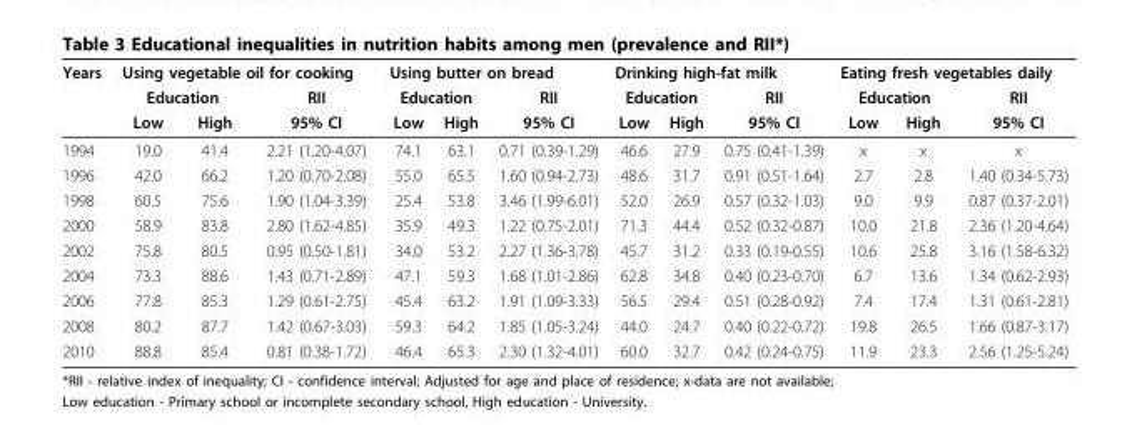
<table><thead><tr><td rowspan="3">Years</td><td colspan="3">Using vegetable oil for cooking</td><td colspan="3">Using butter on bread</td><td colspan="3">Drinking high-fat milk</td><td colspan="3">Eating fresh vegetables daily</td></tr><tr><td colspan="2">Education</td><td rowspan="2">RII 95% CI</td><td colspan="2">Education</td><td rowspan="2">RII 95% CI</td><td colspan="2">Education</td><td rowspan="2">RII 95% CI</td><td colspan="2">Education</td><td rowspan="2">RII 95% CI</td></tr><tr><td>Low</td><td>High</td><td>Low</td><td>High</td><td>Low</td><td>High</td><td>Low</td><td>High</td></tr></thead><tbody><tr><td>1994</td><td>19.0</td><td>41.4</td><td>2.21 (1.20-4.07)</td><td>74.1</td><td>63.1</td><td>0.71 (0.39-1.29)</td><td>46.6</td><td>27.9</td><td>0.75 (0.41-1.39)</td><td>x</td><td>x</td><td>x</td></tr><tr><td>1996</td><td>42.0</td><td>66.2</td><td>1.20 (0.70-2.08)</td><td>55.0</td><td>65.5</td><td>1.60 (0.94-2.73)</td><td>48.6</td><td>31.7</td><td>0.91 (0.51-1.64)</td><td>2.7</td><td>2.8</td><td>1.40 (0.34-5.73)</td></tr><tr><td>1998</td><td>60.5</td><td>75.6</td><td>1.90 (1.04-3.39)</td><td>25.4</td><td>53.8</td><td>3.46 (1.99-6.01)</td><td>52.0</td><td>26.9</td><td>0.57 (0.32-1.03)</td><td>9.0</td><td>9.9</td><td>0.87 (0.37-2.01)</td></tr><tr><td>2000</td><td>58.9</td><td>83.8</td><td>2.80 (1.62-4.85)</td><td>35.9</td><td>49.3</td><td>1.22 (0.75-2.01)</td><td>71.3</td><td>44.4</td><td>0.52 (0.32-0.87)</td><td>10.0</td><td>21.8</td><td>2.36 (1.20-4.64)</td></tr><tr><td>2002</td><td>75.8</td><td>80.5</td><td>0.95 (0.50-1.81)</td><td>34.0</td><td>53.2</td><td>2.27 (1.36-3.78)</td><td>45.7</td><td>31.2</td><td>0.33 (0.19-0.55)</td><td>10.6</td><td>25.8</td><td>3.16 (1.58-6.32)</td></tr><tr><td>2004</td><td>73.3</td><td>88.6</td><td>1.43 (0.71-2.89)</td><td>47.1</td><td>59.3</td><td>1.68 (1.01-2.86)</td><td>62.8</td><td>34.8</td><td>0.40 (0.23-0.70)</td><td>6.7</td><td>13.6</td><td>1.34 (0.62-2.93)</td></tr><tr><td>2006</td><td>77.8</td><td>85.3</td><td>1.29 (0.61-2.75)</td><td>45.4</td><td>63.2</td><td>1.91 (1.09-3.33)</td><td>56.5</td><td>29.4</td><td>0.51 (0.28-0.92)</td><td>7.4</td><td>17.4</td><td>1.31 (0.61-2.81)</td></tr><tr><td>2008</td><td>80.2</td><td>87.7</td><td>1.42 (0.67-3.03)</td><td>59.3</td><td>64.2</td><td>1.85 (1.05-3.24)</td><td>44.0</td><td>24.7</td><td>0.40 (0.22-0.72)</td><td>19.8</td><td>26.5</td><td>1.66 (0.87-3.17)</td></tr><tr><td>2010</td><td>88.8</td><td>85.4</td><td>0.81 (0.38-1.72)</td><td>46.4</td><td>65.3</td><td>2.30 (1.32-4.01)</td><td>60.0</td><td>32.7</td><td>0.42 (0.24-0.75)</td><td>11.9</td><td>23.3</td><td>2.56 (1.25-5.24)</td></tr></tbody></table>